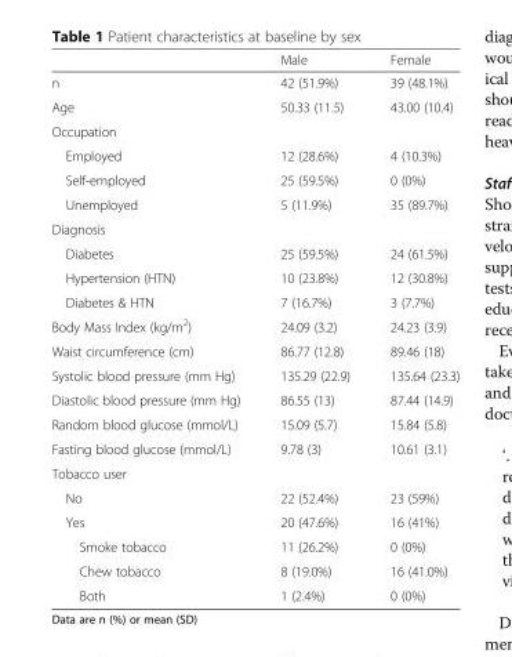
<table><thead><tr><td></td><td>Male</td><td>Female</td></tr></thead><tbody><tr><td>n</td><td>42 (51.9%)</td><td>39 (48.1%)</td></tr><tr><td>Age</td><td>50.33 (11.5)</td><td>43.00 (10.4)</td></tr><tr><td colspan="3">Occupation</td></tr><tr><td>Employed</td><td>12 (28.6%)</td><td>4 (10.3%)</td></tr><tr><td>Self-employed</td><td>25 (59.5%)</td><td>0 (0%)</td></tr><tr><td>Unemployed</td><td>5 (11.9%)</td><td>35 (89.7%)</td></tr><tr><td colspan="3">Diagnosis</td></tr><tr><td>Diabetes</td><td>25 (59.5%)</td><td>24 (61.5%)</td></tr><tr><td>Hypertension (HTN)</td><td>10 (23.8%)</td><td>12 (30.8%)</td></tr><tr><td>Diabetes &amp; HTN</td><td>7 (16.7%)</td><td>3 (7.7%)</td></tr><tr><td>Body Mass Index (kg/m<sup>2</sup>)</td><td>24.09 (3.2)</td><td>24.23 (3.9)</td></tr><tr><td>Waist circumference (cm)</td><td>86.77 (12.8)</td><td>89.46 (18)</td></tr><tr><td>Systolic blood pressure (mm Hg)</td><td>135.29 (22.9)</td><td>135.64 (23.3)</td></tr><tr><td>Diastolic blood pressure (mm Hg)</td><td>86.55 (13)</td><td>87.44 (14.9)</td></tr><tr><td>Random blood glucose (mmol/L)</td><td>15.09 (5.7)</td><td>15.84 (5.8)</td></tr><tr><td>Fasting blood glucose (mmol/L)</td><td>9.78 (3)</td><td>10.61 (3.1)</td></tr><tr><td colspan="3">Tobacco user</td></tr><tr><td>No</td><td>22 (52.4%)</td><td>23 (59%)</td></tr><tr><td>Yes</td><td>20 (47.6%)</td><td>16 (41%)</td></tr><tr><td>Smoke tobacco</td><td>11 (26.2%)</td><td>0 (0%)</td></tr><tr><td>Chew tobacco</td><td>8 (19.0%)</td><td>16 (41.0%)</td></tr><tr><td>Both</td><td>1 (2.4%)</td><td>0 (0%)</td></tr></tbody></table>